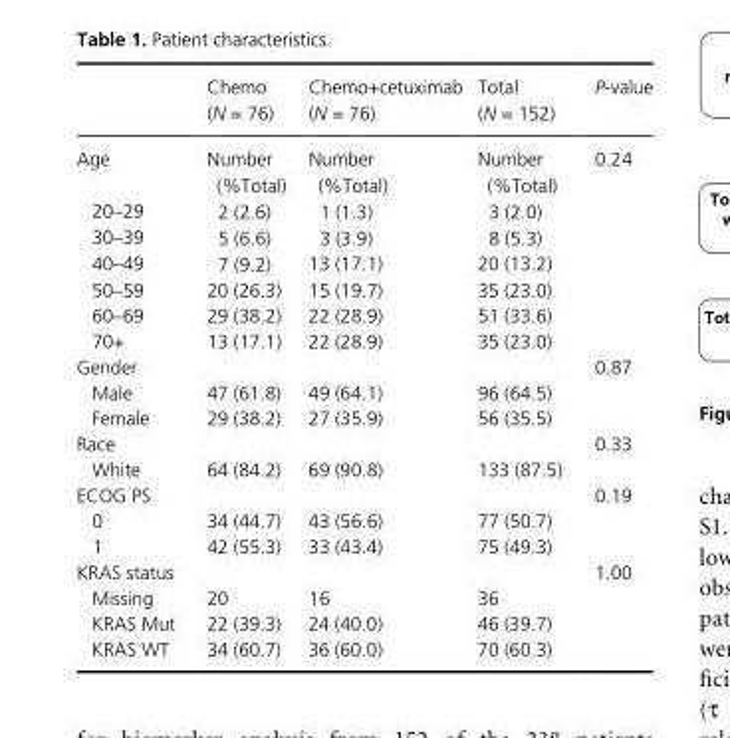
<table><thead><tr><td></td><td>Chemo (N = 76)</td><td>Chemo+cetuximab (N = 76)</td><td>Total (N = 152)</td><td>P-value</td></tr></thead><tbody><tr><td>Age</td><td>Number (%Total)</td><td>Number (%Total)</td><td>Number (%Total)</td><td>0.24</td></tr><tr><td>20–29</td><td>2 (2.6)</td><td>1 (1.3)</td><td>3 (2.0)</td><td></td></tr><tr><td>30–39</td><td>5 (6.6)</td><td>3 (3.9)</td><td>8 (5.3)</td><td></td></tr><tr><td>40–49</td><td>7 (9.2)</td><td>13 (17.1)</td><td>20 (13.2)</td><td></td></tr><tr><td>50–59</td><td>20 (26.3)</td><td>15 (19.7)</td><td>35 (23.0)</td><td></td></tr><tr><td>60–69</td><td>29 (38.2)</td><td>22 (28.9)</td><td>51 (33.6)</td><td></td></tr><tr><td>70+</td><td>13 (17.1)</td><td>22 (28.9)</td><td>35 (23.0)</td><td></td></tr><tr><td>Gender</td><td></td><td></td><td></td><td>0.87</td></tr><tr><td>Male</td><td>47 (61.8)</td><td>49 (64.1)</td><td>96 (64.5)</td><td></td></tr><tr><td>Female</td><td>29 (38.2)</td><td>27 (35.9)</td><td>56 (35.5)</td><td></td></tr><tr><td>Race</td><td></td><td></td><td></td><td>0.33</td></tr><tr><td>White</td><td>64 (84.2)</td><td>69 (90.8)</td><td>133 (87.5)</td><td></td></tr><tr><td>ECOG PS</td><td></td><td></td><td></td><td>0.19</td></tr><tr><td>0</td><td>34 (44.7)</td><td>43 (56.6)</td><td>77 (50.7)</td><td></td></tr><tr><td>1</td><td>42 (55.3)</td><td>33 (43.4)</td><td>75 (49.3)</td><td></td></tr><tr><td>KRAS status</td><td></td><td></td><td></td><td>1.00</td></tr><tr><td>Missing</td><td>20</td><td>16</td><td>36</td><td></td></tr><tr><td>KRAS Mut</td><td>22 (39.3)</td><td>24 (40.0)</td><td>46 (39.7)</td><td></td></tr><tr><td>KRAS WT</td><td>34 (60.7)</td><td>36 (60.0)</td><td>70 (60.3)</td><td></td></tr></tbody></table>